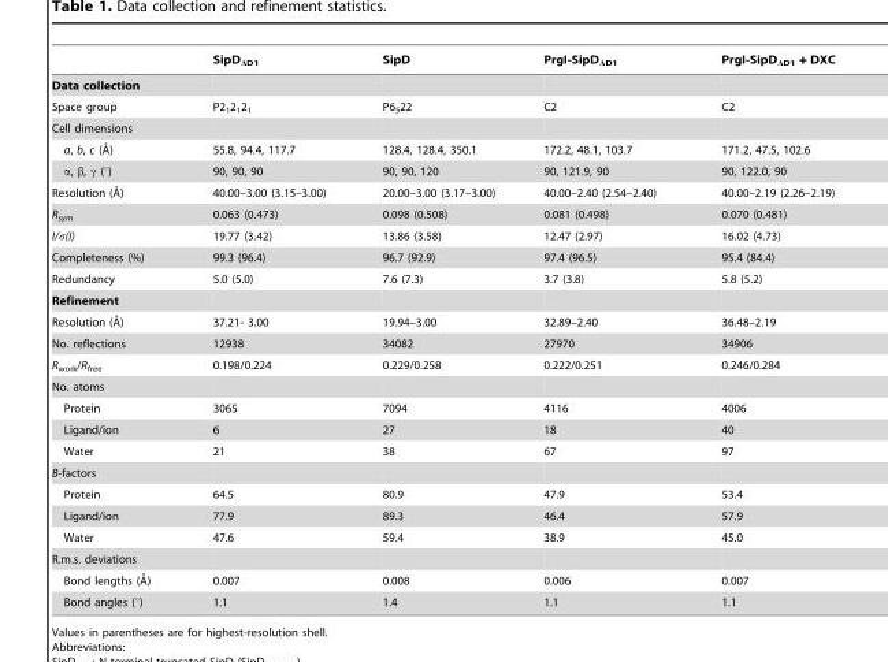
<table><thead><tr><td></td><td>SipD<sub>ΔD1</sub></td><td>SipD</td><td>PrgI-SipD<sub>ΔD1</sub></td><td>PrgI-SipD<sub>ΔD1</sub> + DXC</td></tr></thead><tbody><tr><td colspan="5">Data collection</td></tr><tr><td>Space group</td><td>P2<sub>1</sub>2<sub>1</sub>2<sub>1</sub></td><td>P6<sub>5</sub>22</td><td>C2</td><td>C2</td></tr><tr><td colspan="5">Cell dimensions</td></tr><tr><td>a, b, c (A˚)</td><td>55.8, 94.4, 117.7</td><td>128.4, 128.4, 350.1</td><td>172.2, 48.1, 103.7</td><td>171.2, 47.5, 102.6</td></tr><tr><td>α, β, γ (°)</td><td>90, 90, 90</td><td>90, 90, 120</td><td>90, 121.9, 90</td><td>90, 122.0, 90</td></tr><tr><td>Resolution (A˚)</td><td>40.00–3.00 (3.15–3.00)</td><td>20.00–3.00 (3.17–3.00)</td><td>40.00–2.40 (2.54–2.40)</td><td>40.00–2.19 (2.26–2.19)</td></tr><tr><td>R<sub>sym</sub></td><td>0.063 (0.473)</td><td>0.098 (0.508)</td><td>0.081 (0.498)</td><td>0.070 (0.481)</td></tr><tr><td>I/σ(I)</td><td>19.77 (3.42)</td><td>13.86 (3.58)</td><td>12.47 (2.97)</td><td>16.02 (4.73)</td></tr><tr><td>Completeness (%)</td><td>99.3 (96.4)</td><td>96.7 (92.9)</td><td>97.4 (96.5)</td><td>95.4 (84.4)</td></tr><tr><td>Redundancy</td><td>5.0 (5.0)</td><td>7.6 (7.3)</td><td>3.7 (3.8)</td><td>5.8 (5.2)</td></tr><tr><td colspan="5">Refinement</td></tr><tr><td>Resolution (A˚)</td><td>37.21- 3.00</td><td>19.94–3.00</td><td>32.89–2.40</td><td>36.48–2.19</td></tr><tr><td>No. reflections</td><td>12938</td><td>34082</td><td>27970</td><td>34906</td></tr><tr><td>R<sub>work</sub>/R<sub>free</sub></td><td>0.198/0.224</td><td>0.229/0.258</td><td>0.222/0.251</td><td>0.246/0.284</td></tr><tr><td colspan="5">No. atoms</td></tr><tr><td>Protein</td><td>3065</td><td>7094</td><td>4116</td><td>4006</td></tr><tr><td>Ligand/ion</td><td>6</td><td>27</td><td>18</td><td>40</td></tr><tr><td>Water</td><td>21</td><td>38</td><td>67</td><td>97</td></tr><tr><td colspan="5">B-factors</td></tr><tr><td>Protein</td><td>64.5</td><td>80.9</td><td>47.9</td><td>53.4</td></tr><tr><td>Ligand/ion</td><td>77.9</td><td>89.3</td><td>46.4</td><td>57.9</td></tr><tr><td>Water</td><td>47.6</td><td>59.4</td><td>38.9</td><td>45.0</td></tr><tr><td colspan="5">R.m.s. deviations</td></tr><tr><td>Bond lengths (A˚)</td><td>0.007</td><td>0.008</td><td>0.006</td><td>0.007</td></tr><tr><td>Bond angles (°)</td><td>1.1</td><td>1.4</td><td>1.1</td><td>1.1</td></tr></tbody></table>